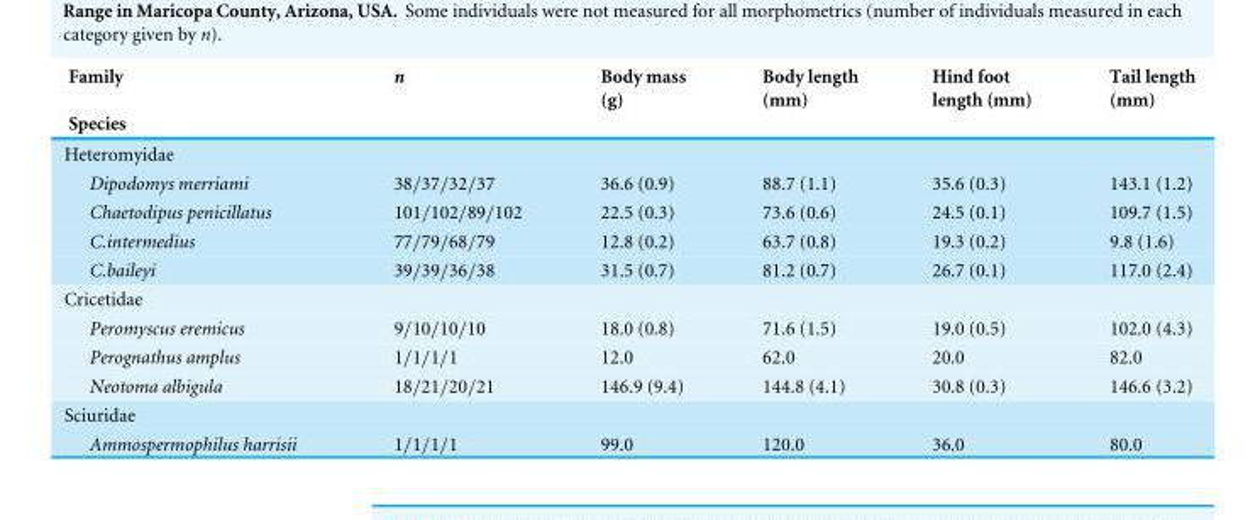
<table><thead><tr><td rowspan="2">Family Species</td><td rowspan="2">n</td><td rowspan="2">Body mass (g)</td><td rowspan="2">Body length (mm)</td><td rowspan="2">Hind foot length (mm)</td><td rowspan="2">Tail length (mm)</td></tr><tr></tr></thead><tbody><tr><td colspan="6">Heteromyidae</td></tr><tr><td>Dipodomys merriami</td><td>38/37/32/37</td><td>36.6 (0.9)</td><td>88.7 (1.1)</td><td>35.6 (0.3)</td><td>143.1 (1.2)</td></tr><tr><td>Chaetodipus penicillatus</td><td>101/102/89/102</td><td>22.5 (0.3)</td><td>73.6 (0.6)</td><td>24.5 (0.1)</td><td>109.7 (1.5)</td></tr><tr><td>C.intermedius</td><td>77/79/68/79</td><td>12.8 (0.2)</td><td>63.7 (0.8)</td><td>19.3 (0.2)</td><td>9.8 (1.6)</td></tr><tr><td>C.baileyi</td><td>39/39/36/38</td><td>31.5 (0.7)</td><td>81.2 (0.7)</td><td>26.7 (0.1)</td><td>117.0 (2.4)</td></tr><tr><td colspan="6">Cricetidae</td></tr><tr><td>Peromyscus eremicus</td><td>9/10/10/10</td><td>18.0 (0.8)</td><td>71.6 (1.5)</td><td>19.0 (0.5)</td><td>102.0 (4.3)</td></tr><tr><td>Perognathus amplus</td><td>1/1/1/1</td><td>12.0</td><td>62.0</td><td>20.0</td><td>82.0</td></tr><tr><td>Neotoma albigula</td><td>18/21/20/21</td><td>146.9 (9.4)</td><td>144.8 (4.1)</td><td>30.8 (0.3)</td><td>146.6 (3.2)</td></tr><tr><td colspan="6">Sciuridae</td></tr><tr><td>Ammospermophilus harrisii</td><td>1/1/1/1</td><td>99.0</td><td>120.0</td><td>36.0</td><td>80.0</td></tr></tbody></table>